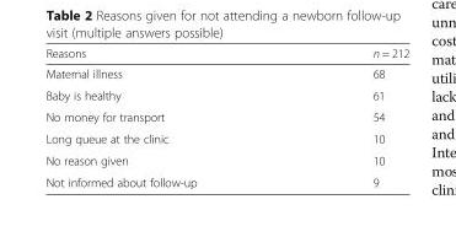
<table><thead><tr><td>Reasons</td><td>n = 212</td></tr></thead><tbody><tr><td>Maternal illness</td><td>68</td></tr><tr><td>Baby is healthy</td><td>61</td></tr><tr><td>No money for transport</td><td>54</td></tr><tr><td>Long queue at the clinic</td><td>10</td></tr><tr><td>No reason given</td><td>10</td></tr><tr><td>Not informed about follow-up</td><td>9</td></tr></tbody></table>